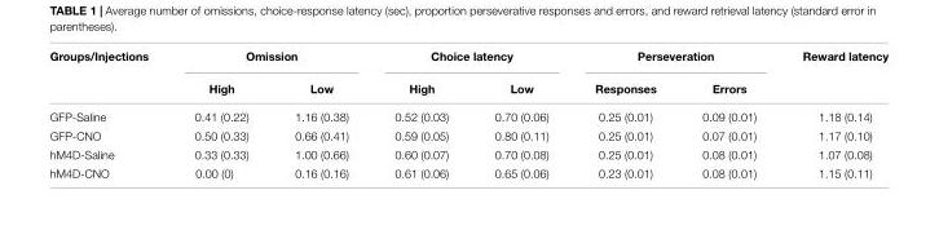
<table><thead><tr><td rowspan="2">Groups/Injections</td><td colspan="2">Omission</td><td colspan="2">Choice latency</td><td colspan="2">Perseveration</td><td rowspan="2">Reward latency</td></tr><tr><td>High</td><td>Low</td><td>High</td><td>Low</td><td>Responses</td><td>Errors</td></tr></thead><tbody><tr><td>GFP-Saline</td><td>0.41 (0.22)</td><td>1.16 (0.38)</td><td>0.52 (0.03)</td><td>0.70 (0.06)</td><td>0.25 (0.01)</td><td>0.09 (0.01)</td><td>1.18 (0.14)</td></tr><tr><td>GFP-CNO</td><td>0.50 (0.33)</td><td>0.66 (0.41)</td><td>0.59 (0.05)</td><td>0.80 (0.11)</td><td>0.25 (0.01)</td><td>0.07 (0.01)</td><td>1.17 (0.10)</td></tr><tr><td>hM4D-Saline</td><td>0.33 (0.33)</td><td>1.00 (0.66)</td><td>0.60 (0.07)</td><td>0.70 (0.08)</td><td>0.25 (0.01)</td><td>0.08 (0.01)</td><td>1.07 (0.08)</td></tr><tr><td>hM4D-CNO</td><td>0.00 (0)</td><td>0.16 (0.16)</td><td>0.61 (0.06)</td><td>0.65 (0.06)</td><td>0.23 (0.01)</td><td>0.08 (0.01)</td><td>1.15 (0.11)</td></tr></tbody></table>